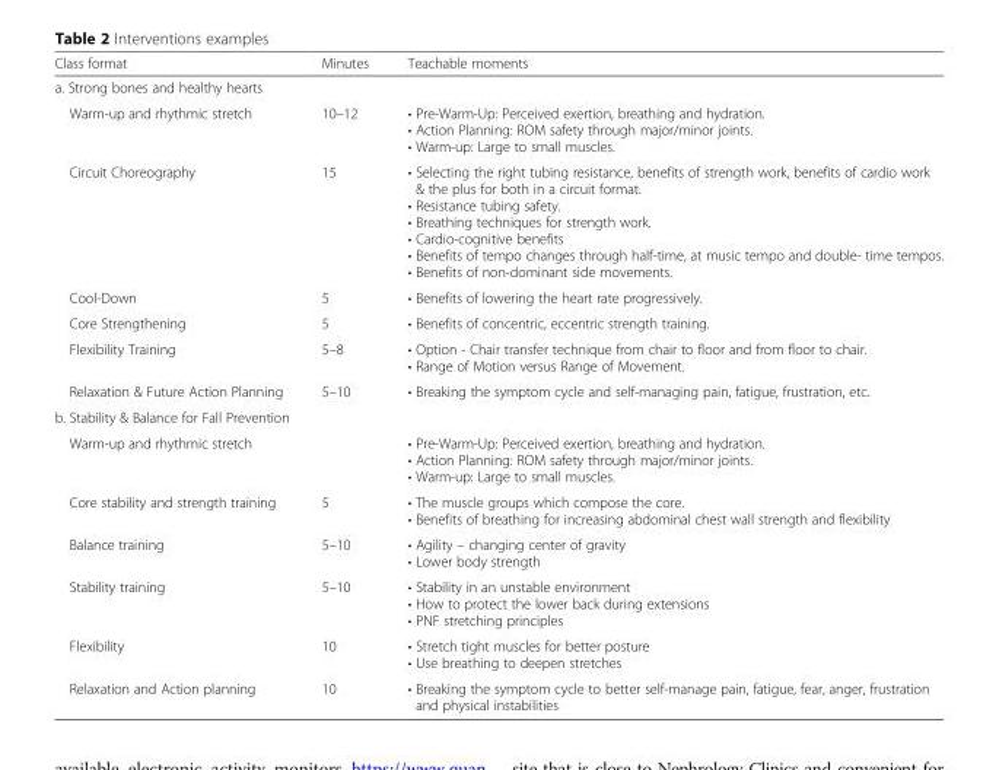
<table><thead><tr><td>Class format</td><td>Minutes</td><td>Teachable moments</td></tr></thead><tbody><tr><td colspan="3">a. Strong bones and healthy hearts</td></tr><tr><td>Warm-up and rhythmic stretch</td><td>10–12</td><td>• Pre-Warm-Up: Perceived exertion, breathing and hydration. • Action Planning: ROM safety through major/minor joints. • Warm-up: Large to small muscles.</td></tr><tr><td>Circuit Choreography</td><td>15</td><td>• Selecting the right tubing resistance, benefits of strength work, benefits of cardio work &amp; the plus for both in a circuit format. • Resistance tubing safety. • Breathing techniques for strength work. • Cardio-cognitive benefits • Benefits of tempo changes through half-time, at music tempo and double- time tempos. • Benefits of non-dominant side movements.</td></tr><tr><td>Cool-Down</td><td>5</td><td>• Benefits of lowering the heart rate progressively.</td></tr><tr><td>Core Strengthening</td><td>5</td><td>• Benefits of concentric, eccentric strength training.</td></tr><tr><td>Flexibility Training</td><td>5–8</td><td>• Option - Chair transfer technique from chair to floor and from floor to chair. • Range of Motion versus Range of Movement.</td></tr><tr><td>Relaxation &amp; Future Action Planning</td><td>5–10</td><td>• Breaking the symptom cycle and self-managing pain, fatigue, frustration, etc.</td></tr><tr><td colspan="3">b. Stability &amp; Balance for Fall Prevention</td></tr><tr><td>Warm-up and rhythmic stretch</td><td></td><td>• Pre-Warm-Up: Perceived exertion, breathing and hydration. • Action Planning: ROM safety through major/minor joints. • Warm-up: Large to small muscles.</td></tr><tr><td>Core stability and strength training</td><td>5</td><td>• The muscle groups which compose the core. • Benefits of breathing for increasing abdominal chest wall strength and flexibility</td></tr><tr><td>Balance training</td><td>5–10</td><td>• Agility – changing center of gravity • Lower body strength</td></tr><tr><td>Stability training</td><td>5–10</td><td>• Stability in an unstable environment • How to protect the lower back during extensions • PNF stretching principles</td></tr><tr><td>Flexibility</td><td>10</td><td>• Stretch tight muscles for better posture • Use breathing to deepen stretches</td></tr><tr><td>Relaxation and Action planning</td><td>10</td><td>• Breaking the symptom cycle to better self-manage pain, fatigue, fear, anger, frustration and physical instabilities</td></tr></tbody></table>